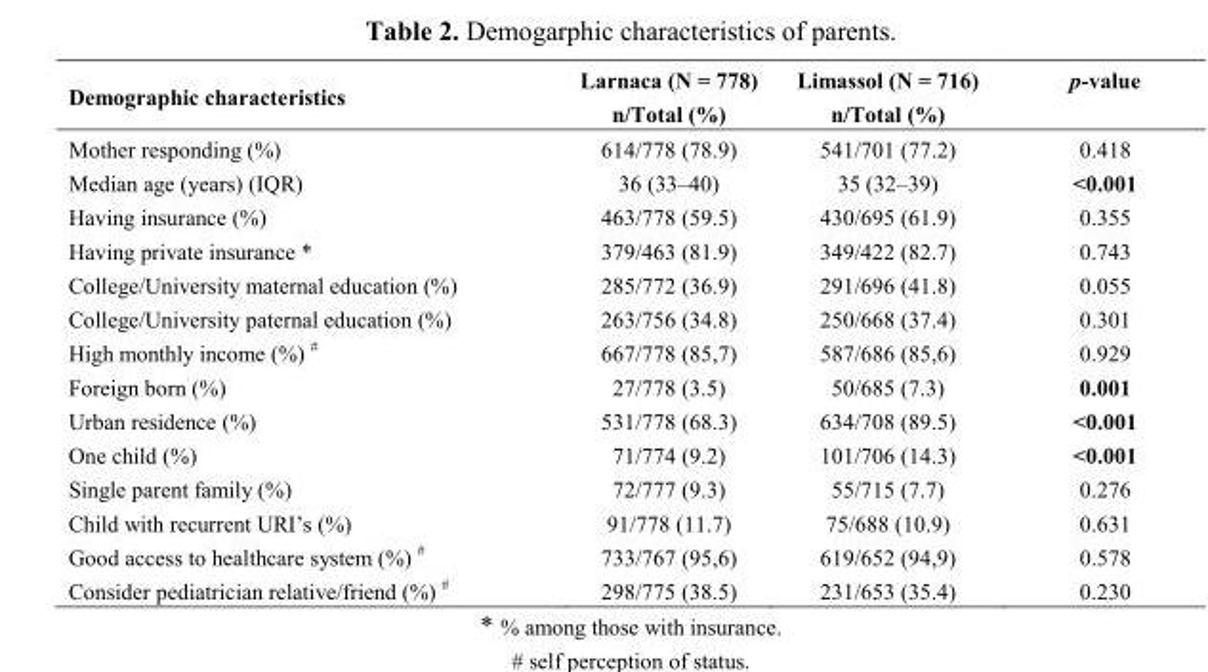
<table><thead><tr><td>Demographic characteristics</td><td>Larnaca (N = 778) n/Total (%)</td><td>Limassol (N = 716) n/Total (%)</td><td>p-value</td></tr></thead><tbody><tr><td>Mother responding (%)</td><td>614/778 (78.9)</td><td>541/701 (77.2)</td><td>0.418</td></tr><tr><td>Median age (years) (IQR)</td><td>36 (33–40)</td><td>35 (32–39)</td><td>&lt;0.001</td></tr><tr><td>Having insurance (%)</td><td>463/778 (59.5)</td><td>430/695 (61.9)</td><td>0.355</td></tr><tr><td>Having private insurance *</td><td>379/463 (81.9)</td><td>349/422 (82.7)</td><td>0.743</td></tr><tr><td>College/University maternal education (%)</td><td>285/772 (36.9)</td><td>291/696 (41.8)</td><td>0.055</td></tr><tr><td>College/University paternal education (%)</td><td>263/756 (34.8)</td><td>250/668 (37.4)</td><td>0.301</td></tr><tr><td>High monthly income (%) <sup>#</sup></td><td>667/778 (85,7)</td><td>587/686 (85,6)</td><td>0.929</td></tr><tr><td>Foreign born (%)</td><td>27/778 (3.5)</td><td>50/685 (7.3)</td><td>0.001</td></tr><tr><td>Urban residence (%)</td><td>531/778 (68.3)</td><td>634/708 (89.5)</td><td>&lt;0.001</td></tr><tr><td>One child (%)</td><td>71/774 (9.2)</td><td>101/706 (14.3)</td><td>&lt;0.001</td></tr><tr><td>Single parent family (%)</td><td>72/777 (9.3)</td><td>55/715 (7.7)</td><td>0.276</td></tr><tr><td>Child with recurrent URI’s (%)</td><td>91/778 (11.7)</td><td>75/688 (10.9)</td><td>0.631</td></tr><tr><td>Good access to healthcare system (%) <sup>#</sup></td><td>733/767 (95,6)</td><td>619/652 (94,9)</td><td>0.578</td></tr><tr><td>Consider pediatrician relative/friend (%) <sup>#</sup></td><td>298/775 (38.5)</td><td>231/653 (35.4)</td><td>0.230</td></tr></tbody></table>